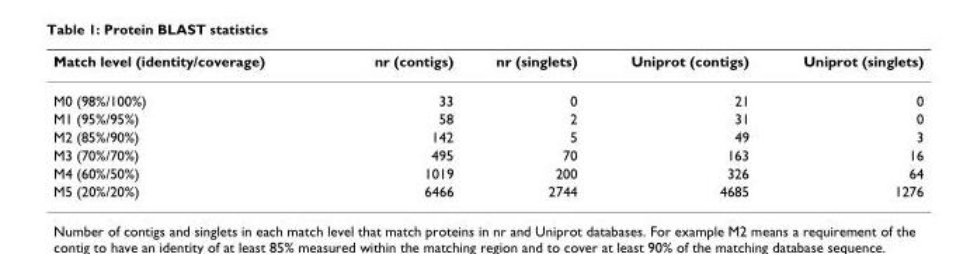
<table><thead><tr><td>Match level (identity/coverage)</td><td>nr (contigs)</td><td>nr (singlets)</td><td>Uniprot (contigs)</td><td>Uniprot (singlets)</td></tr></thead><tbody><tr><td>M0 (98%/100%)</td><td>33</td><td>0</td><td>21</td><td>0</td></tr><tr><td>M1 (95%/95%)</td><td>58</td><td>2</td><td>31</td><td>0</td></tr><tr><td>M2 (85%/90%)</td><td>142</td><td>5</td><td>49</td><td>3</td></tr><tr><td>M3 (70%/70%)</td><td>495</td><td>70</td><td>163</td><td>16</td></tr><tr><td>M4 (60%/50%)</td><td>1019</td><td>200</td><td>326</td><td>64</td></tr><tr><td>M5 (20%/20%)</td><td>6466</td><td>2744</td><td>4685</td><td>1276</td></tr></tbody></table>